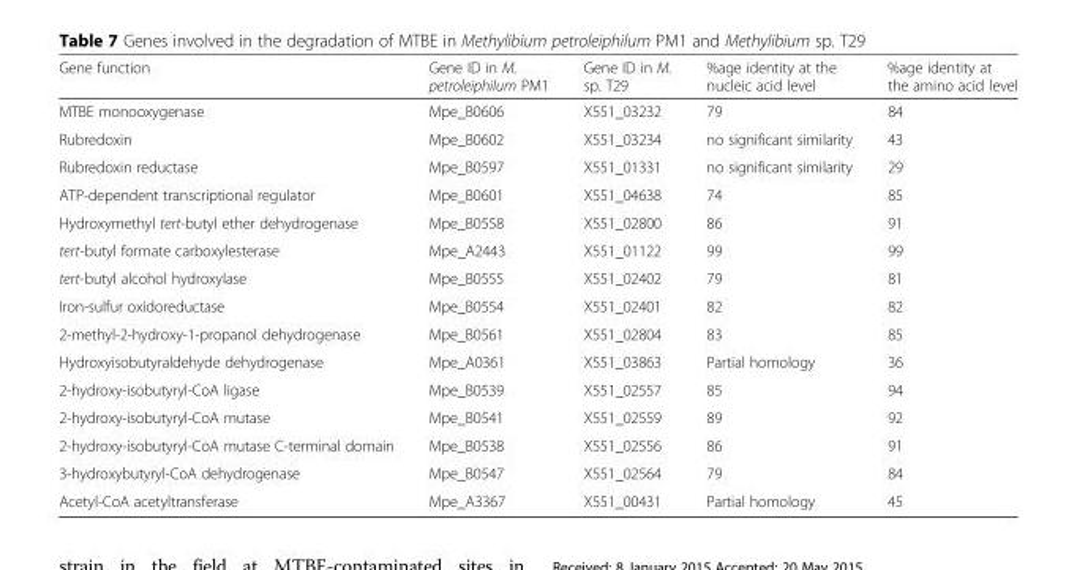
<table><thead><tr><td>Gene function</td><td>Gene ID in M. petroleiphilum PM1</td><td>Gene ID in M. sp. T29</td><td>%age identity at the nucleic acid level</td><td>%age identity at the amino acid level</td></tr></thead><tbody><tr><td>MTBE monooxygenase</td><td>Mpe_B0606</td><td>X551_03232</td><td>79</td><td>84</td></tr><tr><td>Rubredoxin</td><td>Mpe_B0602</td><td>X551_03234</td><td>no significant similarity</td><td>43</td></tr><tr><td>Rubredoxin reductase</td><td>Mpe_B0597</td><td>X551_01331</td><td>no significant similarity</td><td>29</td></tr><tr><td>ATP-dependent transcriptional regulator</td><td>Mpe_B0601</td><td>X551_04638</td><td>74</td><td>85</td></tr><tr><td>Hydroxymethyl tert-butyl ether dehydrogenase</td><td>Mpe_B0558</td><td>X551_02800</td><td>86</td><td>91</td></tr><tr><td>tert-butyl formate carboxylesterase</td><td>Mpe_A2443</td><td>X551_01122</td><td>99</td><td>99</td></tr><tr><td>tert-butyl alcohol hydroxylase</td><td>Mpe_B0555</td><td>X551_02402</td><td>79</td><td>81</td></tr><tr><td>Iron-sulfur oxidoreductase</td><td>Mpe_B0554</td><td>X551_02401</td><td>82</td><td>82</td></tr><tr><td>2-methyl-2-hydroxy-1-propanol dehydrogenase</td><td>Mpe_B0561</td><td>X551_02804</td><td>83</td><td>85</td></tr><tr><td>Hydroxyisobutyraldehyde dehydrogenase</td><td>Mpe_A0361</td><td>X551_03863</td><td>Partial homology</td><td>36</td></tr><tr><td>2-hydroxy-isobutyryl-CoA ligase</td><td>Mpe_B0539</td><td>X551_02557</td><td>85</td><td>94</td></tr><tr><td>2-hydroxy-isobutyryl-CoA mutase</td><td>Mpe_B0541</td><td>X551_02559</td><td>89</td><td>92</td></tr><tr><td>2-hydroxy-isobutyryl-CoA mutase C-terminal domain</td><td>Mpe_B0538</td><td>X551_02556</td><td>86</td><td>91</td></tr><tr><td>3-hydroxybutyryl-CoA dehydrogenase</td><td>Mpe_B0547</td><td>X551_02564</td><td>79</td><td>84</td></tr><tr><td>Acetyl-CoA acetyltransferase</td><td>Mpe_A3367</td><td>X551_00431</td><td>Partial homology</td><td>45</td></tr></tbody></table>